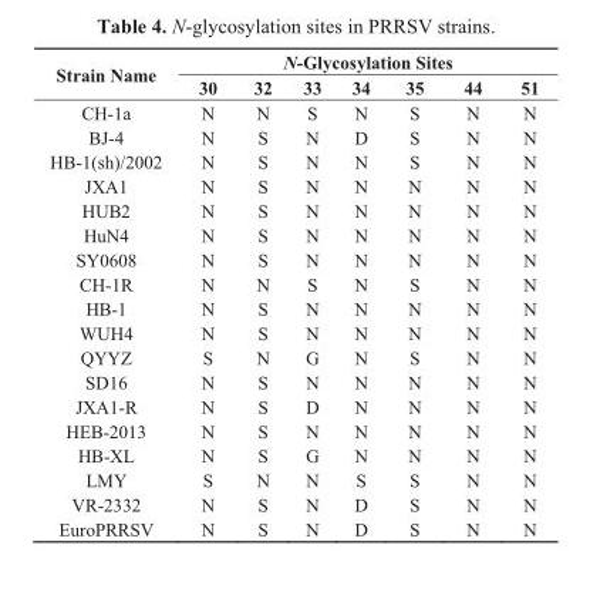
<table><thead><tr><td rowspan="2">Strain Name</td><td colspan="7">N-Glycosylation Sites</td></tr><tr><td>30</td><td>32</td><td>33</td><td>34</td><td>35</td><td>44</td><td>51</td></tr></thead><tbody><tr><td>CH-1a</td><td>N</td><td>N</td><td>S</td><td>N</td><td>S</td><td>N</td><td>N</td></tr><tr><td>BJ-4</td><td>N</td><td>S</td><td>N</td><td>D</td><td>S</td><td>N</td><td>N</td></tr><tr><td>HB-1(sh)/2002</td><td>N</td><td>S</td><td>N</td><td>N</td><td>S</td><td>N</td><td>N</td></tr><tr><td>JXA1</td><td>N</td><td>S</td><td>N</td><td>N</td><td>N</td><td>N</td><td>N</td></tr><tr><td>HUB2</td><td>N</td><td>S</td><td>N</td><td>N</td><td>N</td><td>N</td><td>N</td></tr><tr><td>HuN4</td><td>N</td><td>S</td><td>N</td><td>N</td><td>N</td><td>N</td><td>N</td></tr><tr><td>SY0608</td><td>N</td><td>S</td><td>N</td><td>N</td><td>N</td><td>N</td><td>N</td></tr><tr><td>CH-1R</td><td>N</td><td>N</td><td>S</td><td>N</td><td>S</td><td>N</td><td>N</td></tr><tr><td>HB-1</td><td>N</td><td>S</td><td>N</td><td>N</td><td>N</td><td>N</td><td>N</td></tr><tr><td>WUH4</td><td>N</td><td>S</td><td>N</td><td>N</td><td>N</td><td>N</td><td>N</td></tr><tr><td>QYYZ</td><td>S</td><td>N</td><td>G</td><td>N</td><td>S</td><td>N</td><td>N</td></tr><tr><td>SD16</td><td>N</td><td>S</td><td>N</td><td>N</td><td>N</td><td>N</td><td>N</td></tr><tr><td>JXA1-R</td><td>N</td><td>S</td><td>D</td><td>N</td><td>N</td><td>N</td><td>N</td></tr><tr><td>HEB-2013</td><td>N</td><td>S</td><td>N</td><td>N</td><td>N</td><td>N</td><td>N</td></tr><tr><td>HB-XL</td><td>N</td><td>S</td><td>G</td><td>N</td><td>N</td><td>N</td><td>N</td></tr><tr><td>LMY</td><td>S</td><td>N</td><td>N</td><td>S</td><td>S</td><td>N</td><td>N</td></tr><tr><td>VR-2332</td><td>N</td><td>S</td><td>N</td><td>D</td><td>S</td><td>N</td><td>N</td></tr><tr><td>EuroPRRSV</td><td>N</td><td>S</td><td>N</td><td>D</td><td>S</td><td>N</td><td>N</td></tr></tbody></table>